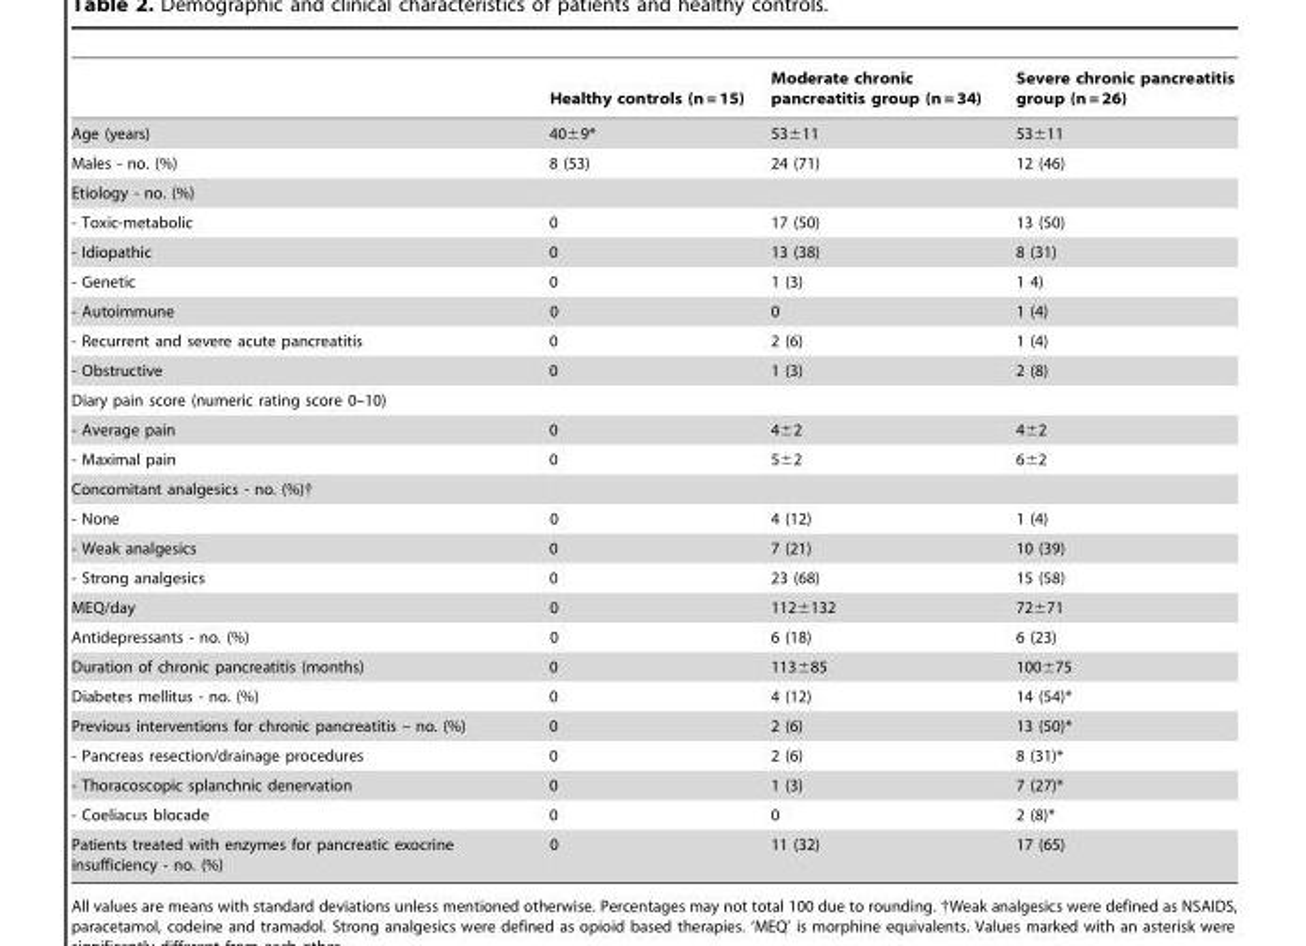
<table><thead><tr><td></td><td>Healthy controls (n = 15)</td><td>Moderate chronic pancreatitis group (n = 34)</td><td>Severe chronic pancreatitis group (n = 26)</td></tr></thead><tbody><tr><td>Age (years)</td><td>40±9*</td><td>53±11</td><td>53±11</td></tr><tr><td>Males - no. (%)</td><td>8 (53)</td><td>24 (71)</td><td>12 (46)</td></tr><tr><td colspan="4">Etiology - no. (%)</td></tr><tr><td>- Toxic-metabolic</td><td>0</td><td>17 (50)</td><td>13 (50)</td></tr><tr><td>- Idiopathic</td><td>0</td><td>13 (38)</td><td>8 (31)</td></tr><tr><td>- Genetic</td><td>0</td><td>1 (3)</td><td>1 4)</td></tr><tr><td>- Autoimmune</td><td>0</td><td>0</td><td>1 (4)</td></tr><tr><td>- Recurrent and severe acute pancreatitis</td><td>0</td><td>2 (6)</td><td>1 (4)</td></tr><tr><td>- Obstructive</td><td>0</td><td>1 (3)</td><td>2 (8)</td></tr><tr><td colspan="4">Diary pain score (numeric rating score 0–10)</td></tr><tr><td>- Average pain</td><td>0</td><td>4±2</td><td>4±2</td></tr><tr><td>- Maximal pain</td><td>0</td><td>5±2</td><td>6±2</td></tr><tr><td colspan="4">Concomitant analgesics - no. (%)†</td></tr><tr><td>- None</td><td>0</td><td>4 (12)</td><td>1 (4)</td></tr><tr><td>- Weak analgesics</td><td>0</td><td>7 (21)</td><td>10 (39)</td></tr><tr><td>- Strong analgesics</td><td>0</td><td>23 (68)</td><td>15 (58)</td></tr><tr><td>MEQ/day</td><td>0</td><td>112±132</td><td>72±71</td></tr><tr><td>Antidepressants - no. (%)</td><td>0</td><td>6 (18)</td><td>6 (23)</td></tr><tr><td>Duration of chronic pancreatitis (months)</td><td>0</td><td>113±85</td><td>100±75</td></tr><tr><td>Diabetes mellitus - no. (%)</td><td>0</td><td>4 (12)</td><td>14 (54)*</td></tr><tr><td>Previous interventions for chronic pancreatitis – no. (%)</td><td>0</td><td>2 (6)</td><td>13 (50)*</td></tr><tr><td>- Pancreas resection/drainage procedures</td><td>0</td><td>2 (6)</td><td>8 (31)*</td></tr><tr><td>- Thoracoscopic splanchnic denervation</td><td>0</td><td>1 (3)</td><td>7 (27)*</td></tr><tr><td>- Coeliacus blocade</td><td>0</td><td>0</td><td>2 (8)*</td></tr><tr><td>Patients treated with enzymes for pancreatic exocrine insufficiency - no. (%)</td><td>0</td><td>11 (32)</td><td>17 (65)</td></tr></tbody></table>